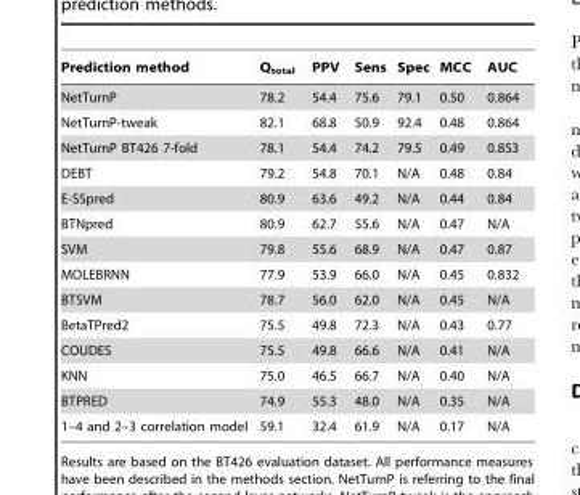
<table><thead><tr><td>Prediction method</td><td>Q<sub>total</sub></td><td>PPV</td><td>Sens</td><td>Spec</td><td>MCC</td><td>AUC</td></tr></thead><tbody><tr><td>NetTurnP</td><td>78.2</td><td>54.4</td><td>75.6</td><td>79.1</td><td>0.50</td><td>0.864</td></tr><tr><td>NetTurnP-tweak</td><td>82.1</td><td>68.8</td><td>50.9</td><td>92.4</td><td>0.48</td><td>0.864</td></tr><tr><td>NetTurnP BT426 7-fold</td><td>78.1</td><td>54.4</td><td>74.2</td><td>79.5</td><td>0.49</td><td>0.853</td></tr><tr><td>DEBT</td><td>79.2</td><td>54.8</td><td>70.1</td><td>N/A</td><td>0.48</td><td>0.84</td></tr><tr><td>E-SSpred</td><td>80.9</td><td>63.6</td><td>49.2</td><td>N/A</td><td>0.44</td><td>0.84</td></tr><tr><td>BTNpred</td><td>80.9</td><td>62.7</td><td>55.6</td><td>N/A</td><td>0.47</td><td>N/A</td></tr><tr><td>SVM</td><td>79.8</td><td>55.6</td><td>68.9</td><td>N/A</td><td>0.47</td><td>0.87</td></tr><tr><td>MOLEBRNN</td><td>77.9</td><td>53.9</td><td>66.0</td><td>N/A</td><td>0.45</td><td>0.832</td></tr><tr><td>BTSVM</td><td>78.7</td><td>56.0</td><td>62.0</td><td>N/A</td><td>0.45</td><td>N/A</td></tr><tr><td>BetaTPred2</td><td>75.5</td><td>49.8</td><td>72.3</td><td>N/A</td><td>0.43</td><td>0.77</td></tr><tr><td>COUDES</td><td>75.5</td><td>49.8</td><td>66.6</td><td>N/A</td><td>0.41</td><td>N/A</td></tr><tr><td>KNN</td><td>75.0</td><td>46.5</td><td>66.7</td><td>N/A</td><td>0.40</td><td>N/A</td></tr><tr><td>BTPRED</td><td>74.9</td><td>55.3</td><td>48.0</td><td>N/A</td><td>0.35</td><td>N/A</td></tr><tr><td>1–4 and 2–3 correlation model</td><td>59.1</td><td>32.4</td><td>61.9</td><td>N/A</td><td>0.17</td><td>N/A</td></tr></tbody></table>